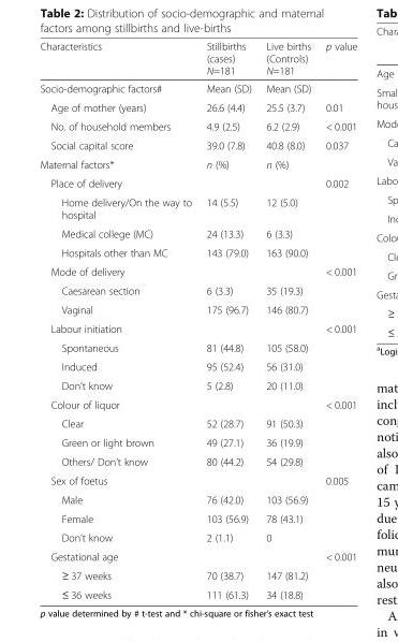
<table><thead><tr><td>Characteristics</td><td>Stillbirths (cases) N=181</td><td>Live births (Controls) N=181</td><td>p value</td></tr></thead><tbody><tr><td>Socio-demographic factors#</td><td>Mean (SD)</td><td>Mean (SD)</td><td></td></tr><tr><td>Age of mother (years)</td><td>26.6 (4.4)</td><td>25.5 (3.7)</td><td>0.01</td></tr><tr><td>No. of household members</td><td>4.9 (2.5)</td><td>6.2 (2.9)</td><td>&lt; 0.001</td></tr><tr><td>Social capital score</td><td>39.0 (7.8)</td><td>40.8 (8.0)</td><td>0.037</td></tr><tr><td>Maternal factors*</td><td>n (%)</td><td>n (%)</td><td></td></tr><tr><td>Place of delivery</td><td></td><td></td><td>0.002</td></tr><tr><td>Home delivery/On the way to hospital</td><td>14 (5.5)</td><td>12 (5.0)</td><td></td></tr><tr><td>Medical college (MC)</td><td>24 (13.3)</td><td>6 (3.3)</td><td></td></tr><tr><td>Hospitals other than MC</td><td>143 (79.0)</td><td>163 (90.0)</td><td></td></tr><tr><td>Mode of delivery</td><td></td><td></td><td>&lt; 0.001</td></tr><tr><td>Caesarean section</td><td>6 (3.3)</td><td>35 (19.3)</td><td></td></tr><tr><td>Vaginal</td><td>175 (96.7)</td><td>146 (80.7)</td><td></td></tr><tr><td>Labour initiation</td><td></td><td></td><td>&lt; 0.001</td></tr><tr><td>Spontaneous</td><td>81 (44.8)</td><td>105 (58.0)</td><td></td></tr><tr><td>Induced</td><td>95 (52.4)</td><td>56 (31.0)</td><td></td></tr><tr><td>Don’t know</td><td>5 (2.8)</td><td>20 (11.0)</td><td></td></tr><tr><td>Colour of liquor</td><td></td><td></td><td>&lt; 0.001</td></tr><tr><td>Clear</td><td>52 (28.7)</td><td>91 (50.3)</td><td></td></tr><tr><td>Green or light brown</td><td>49 (27.1)</td><td>36 (19.9)</td><td></td></tr><tr><td>Others/ Don’t know</td><td>80 (44.2)</td><td>54 (29.8)</td><td></td></tr><tr><td>Sex of foetus</td><td></td><td></td><td>0.005</td></tr><tr><td>Male</td><td>76 (42.0)</td><td>103 (56.9)</td><td></td></tr><tr><td>Female</td><td>103 (56.9)</td><td>78 (43.1)</td><td></td></tr><tr><td>Don’t know</td><td>2 (1.1)</td><td>0</td><td></td></tr><tr><td>Gestational age</td><td></td><td></td><td>&lt; 0.001</td></tr><tr><td>≥ 37 weeks</td><td>70 (38.7)</td><td>147 (81.2)</td><td></td></tr><tr><td>≤ 36 weeks</td><td>111 (61.3)</td><td>34 (18.8)</td><td></td></tr></tbody></table>